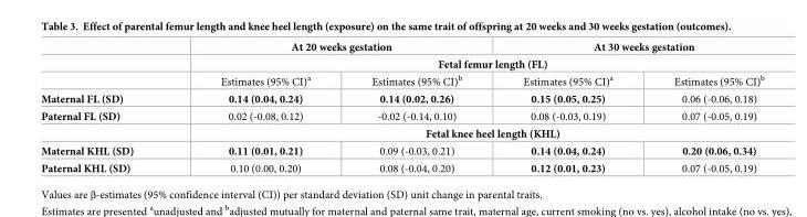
<table><thead><tr><td rowspan="3"></td><td colspan="2">At 20 weeks gestation</td><td colspan="2">At 30 weeks gestation</td></tr><tr><td colspan="4">Fetal femur length (FL)</td></tr><tr><td>Estimates (95% CI)<sup>a</sup></td><td>Estimates (95% CI)<sup>b</sup></td><td>Estimates (95% CI)<sup>a</sup></td><td>Estimates (95% CI)<sup>b</sup></td></tr></thead><tbody><tr><td>Maternal FL (SD)</td><td>0.14 (0.04, 0.24)</td><td>0.14 (0.02, 0.26)</td><td>0.15 (0.05, 0.25)</td><td>0.06 (-0.06, 0.18)</td></tr><tr><td rowspan="2">Paternal FL (SD)</td><td>0.02 (-0.08, 0.12)</td><td>-0.02 (-0.14, 0.10)</td><td>0.08 (-0.03, 0.19)</td><td>0.07 (-0.05, 0.19)</td></tr><tr><td colspan="4">Fetal knee heel length (KHL)</td></tr><tr><td>Maternal KHL (SD)</td><td>0.11 (0.01, 0.21)</td><td>0.09 (-0.03, 0.21)</td><td>0.14 (0.04, 0.24)</td><td>0.20 (0.06, 0.34)</td></tr><tr><td>Paternal KHL (SD)</td><td>0.10 (0.00, 0.20)</td><td>0.08 (-0.04, 0.20)</td><td>0.12 (0.01, 0.23)</td><td>0.07 (-0.05, 0.19)</td></tr></tbody></table>